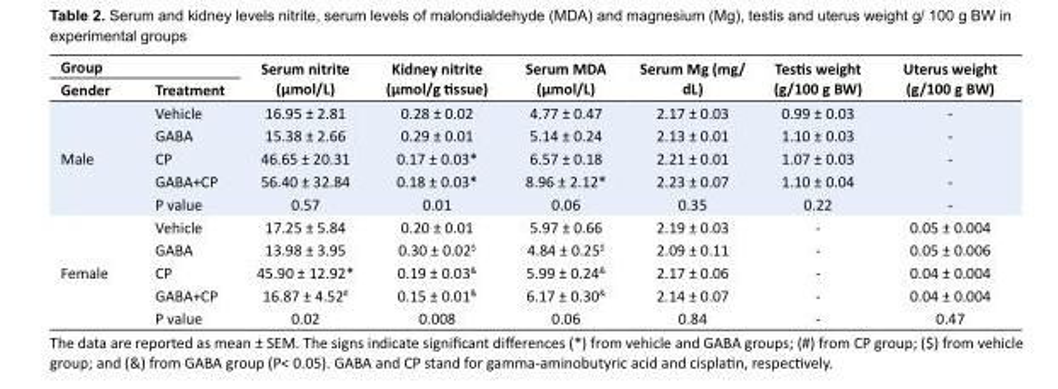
<table><tbody><tr><td colspan="2">Group</td><td rowspan="2">Serum nitrite (µmol/L)</td><td rowspan="2">Kidney nitrite (µmol/g tissue)</td><td rowspan="2">Serum MDA (µmol/L)</td><td rowspan="2">Serum Mg (mg/ dL)</td><td rowspan="2">Testis weight (g/100 g BW)</td><td rowspan="2">Uterus weight (g/100 g BW)</td></tr><tr><td>Gender</td><td>Treatment</td></tr><tr><td rowspan="5">Male</td><td>Vehicle</td><td>16.95 ± 2.81</td><td>0.28 ± 0.02</td><td>4.77 ± 0.47</td><td>2.17 ± 0.03</td><td>0.99 ± 0.03</td><td>-</td></tr><tr><td>GABA</td><td>15.38 ± 2.66</td><td>0.29 ± 0.01</td><td>5.14 ± 0.24</td><td>2.13 ± 0.01</td><td>1.10 ± 0.03</td><td>-</td></tr><tr><td>CP</td><td>46.65 ± 20.31</td><td>0.17 ± 0.03*</td><td>6.57 ± 0.18</td><td>2.21 ± 0.01</td><td>1.07 ± 0.03</td><td>-</td></tr><tr><td>GABA+CP</td><td>56.40 ± 32.84</td><td>0.18 ± 0.03*</td><td>8.96 ± 2.12*</td><td>2.23 ± 0.07</td><td>1.10 ± 0.04</td><td>-</td></tr><tr><td>P value</td><td>0.57</td><td>0.01</td><td>0.06</td><td>0.35</td><td>0.22</td><td>-</td></tr><tr><td rowspan="5">Female</td><td>Vehicle</td><td>17.25 ± 5.84</td><td>0.20 ± 0.01</td><td>5.97 ± 0.66</td><td>2.19 ± 0.03</td><td>-</td><td>0.05 ± 0.004</td></tr><tr><td>GABA</td><td>13.98 ± 3.95</td><td>0.30 ± 0.02<sup>$</sup></td><td>4.84 ± 0.25<sup>$</sup></td><td>2.09 ± 0.11</td><td>-</td><td>0.05 ± 0.006</td></tr><tr><td>CP</td><td>45.90 ± 12.92*</td><td>0.19 ± 0.03<sup>&amp;</sup></td><td>5.99 ± 0.24<sup>&amp;</sup></td><td>2.17 ± 0.06</td><td>-</td><td>0.04 ± 0.004</td></tr><tr><td>GABA+CP</td><td>16.87 ± 4.52<sup>#</sup></td><td>0.15 ± 0.01<sup>&amp;</sup></td><td>6.17 ± 0.30<sup>&amp;</sup></td><td>2.14 ± 0.07</td><td>-</td><td>0.04 ± 0.004</td></tr><tr><td>P value</td><td>0.02</td><td>0.008</td><td>0.06</td><td>0.84</td><td>-</td><td>0.47</td></tr></tbody></table>